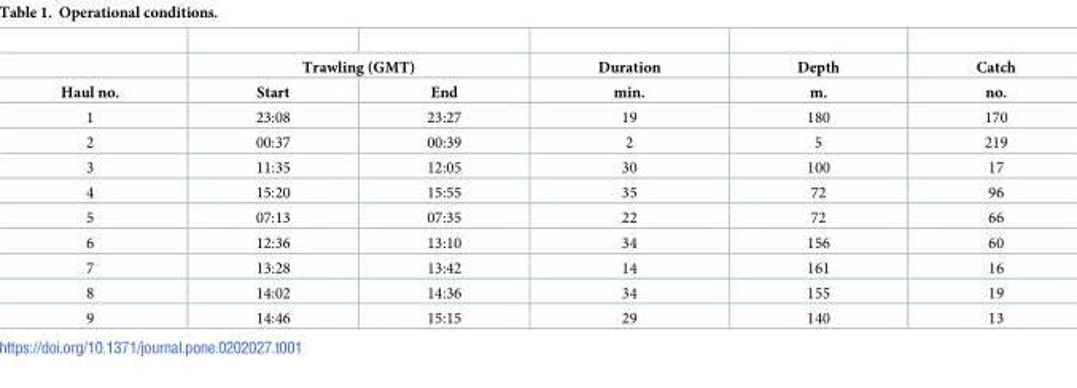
<table><thead><tr><td rowspan="2">Haul no.</td><td colspan="2">Trawling (GMT)</td><td rowspan="2">Duration min.</td><td rowspan="2">Depth m.</td><td rowspan="2">Catch no.</td></tr><tr><td>Start</td><td>End</td></tr></thead><tbody><tr><td>1</td><td>23:08</td><td>23:27</td><td>19</td><td>180</td><td>170</td></tr><tr><td>2</td><td>00:37</td><td>00:39</td><td>2</td><td>5</td><td>219</td></tr><tr><td>3</td><td>11:35</td><td>12:05</td><td>30</td><td>100</td><td>17</td></tr><tr><td>4</td><td>15:20</td><td>15:55</td><td>35</td><td>72</td><td>96</td></tr><tr><td>5</td><td>07:13</td><td>07:35</td><td>22</td><td>72</td><td>66</td></tr><tr><td>6</td><td>12:36</td><td>13:10</td><td>34</td><td>156</td><td>60</td></tr><tr><td>7</td><td>13:28</td><td>13:42</td><td>14</td><td>161</td><td>16</td></tr><tr><td>8</td><td>14:02</td><td>14:36</td><td>34</td><td>155</td><td>19</td></tr><tr><td>9</td><td>14:46</td><td>15:15</td><td>29</td><td>140</td><td>13</td></tr></tbody></table>